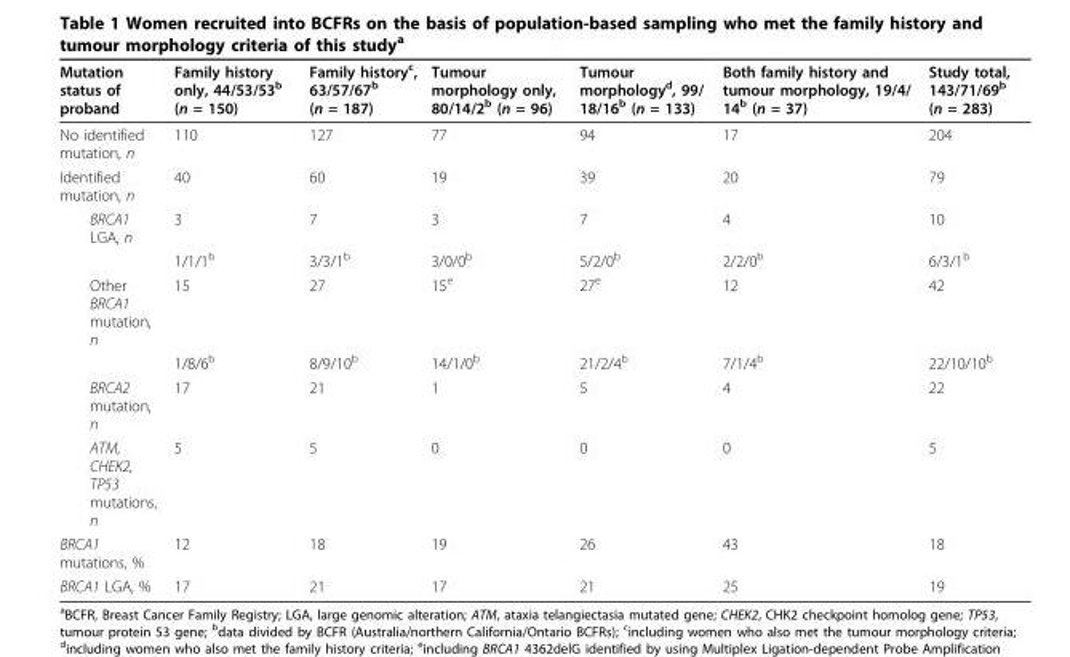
<table><thead><tr><td>Mutation status of proband</td><td>Family history only, 44/53/53<sup>b</sup> (n = 150)</td><td>Family history<sup>c</sup>, 63/57/67<sup>b</sup> (n = 187)</td><td>Tumour morphology only, 80/14/2<sup>b</sup> (n = 96)</td><td>Tumour morphology<sup>d</sup>, 99/ 18/16<sup>b</sup> (n = 133)</td><td>Both family history and tumour morphology, 19/4/ 14<sup>b</sup> (n = 37)</td><td>Study total, 143/71/69<sup>b</sup> (n = 283)</td></tr></thead><tbody><tr><td>No identified mutation, n</td><td>110</td><td>127</td><td>77</td><td>94</td><td>17</td><td>204</td></tr><tr><td>Identified mutation, n</td><td>40</td><td>60</td><td>19</td><td>39</td><td>20</td><td>79</td></tr><tr><td rowspan="2">BRCA1 LGA, n</td><td>3</td><td>7</td><td>3</td><td>7</td><td>4</td><td>10</td></tr><tr><td>1/1/1<sup>b</sup></td><td>3/3/1<sup>b</sup></td><td>3/0/0<sup>b</sup></td><td>5/2/0<sup>b</sup></td><td>2/2/0<sup>b</sup></td><td>6/3/1<sup>b</sup></td></tr><tr><td rowspan="2">Other BRCA1 mutation, n</td><td>15</td><td>27</td><td>15<sup>e</sup></td><td>27<sup>e</sup></td><td>12</td><td>42</td></tr><tr><td>1/8/6<sup>b</sup></td><td>8/9/10<sup>b</sup></td><td>14/1/0<sup>b</sup></td><td>21/2/4<sup>b</sup></td><td>7/1/4<sup>b</sup></td><td>22/10/10<sup>b</sup></td></tr><tr><td>BRCA2 mutation, n</td><td>17</td><td>21</td><td>1</td><td>5</td><td>4</td><td>22</td></tr><tr><td>ATM, CHEK2, TP53 mutations, n</td><td>5</td><td>5</td><td>0</td><td>0</td><td>0</td><td>5</td></tr><tr><td>BRCA1 mutations, %</td><td>12</td><td>18</td><td>19</td><td>26</td><td>43</td><td>18</td></tr><tr><td>BRCA1 LGA, %</td><td>17</td><td>21</td><td>17</td><td>21</td><td>25</td><td>19</td></tr></tbody></table>